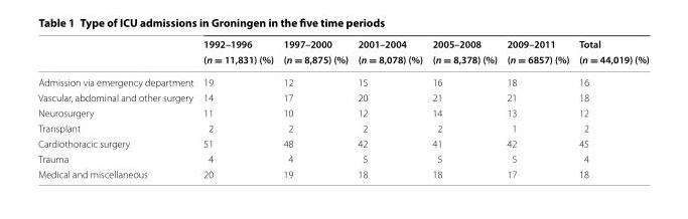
<table><thead><tr><td rowspan="2"></td><td rowspan="2">1992–1996 (n = 11,831) (%)</td><td rowspan="2">1997–2000 (n = 8,875) (%)</td><td rowspan="2">2001–2004 (n = 8,078) (%)</td><td rowspan="2">2005–2008 (n = 8,378) (%)</td><td rowspan="2">2009–2011 (n = 6857) (%)</td><td rowspan="2">Total (n = 44,019) (%)</td></tr><tr></tr></thead><tbody><tr><td>Admission via emergency department</td><td>19</td><td>12</td><td>15</td><td>16</td><td>18</td><td>16</td></tr><tr><td>Vascular, abdominal and other surgery</td><td>14</td><td>17</td><td>20</td><td>21</td><td>21</td><td>18</td></tr><tr><td>Neurosurgery</td><td>11</td><td>10</td><td>12</td><td>14</td><td>13</td><td>12</td></tr><tr><td>Transplant</td><td>2</td><td>2</td><td>2</td><td>2</td><td>1</td><td>2</td></tr><tr><td>Cardiothoracic surgery</td><td>51</td><td>48</td><td>42</td><td>41</td><td>42</td><td>45</td></tr><tr><td>Trauma</td><td>4</td><td>4</td><td>5</td><td>5</td><td>5</td><td>4</td></tr><tr><td>Medical and miscellaneous</td><td>20</td><td>19</td><td>18</td><td>18</td><td>17</td><td>18</td></tr></tbody></table>